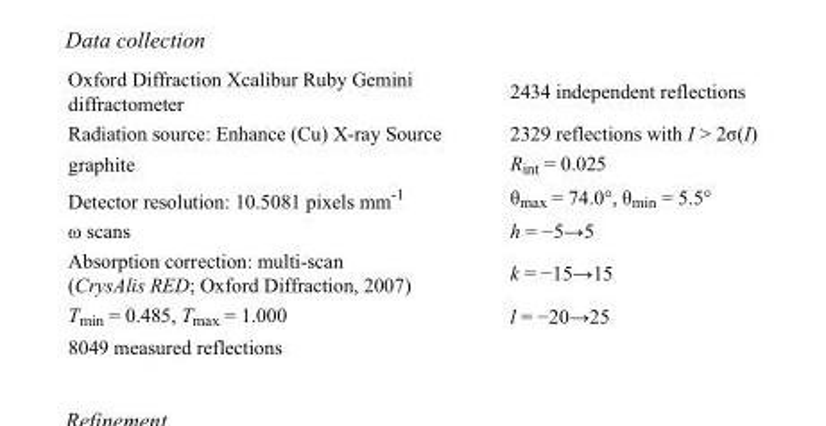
<table><tbody><tr><td>Oxford Diffraction Xcalibur Ruby Gemini diffractometer</td><td>2434 independent reflections</td></tr><tr><td>Radiation source: Enhance (Cu) X-ray Source</td><td>2329 reflections with I &gt; 2σ(I)</td></tr><tr><td>graphite</td><td>R<sub>int</sub> = 0.025</td></tr><tr><td>Detector resolution: 10.5081 pixels mm<sup>-1</sup></td><td>θ<sub>max</sub> = 74.0°, θ<sub>min</sub> = 5.5°</td></tr><tr><td>ω scans</td><td>h = −5→5</td></tr><tr><td>Absorption correction: multi-scan (CrysAlis RED; Oxford Diffraction, 2007)</td><td>k = −15→15</td></tr><tr><td>T<sub>min</sub> = 0.485, T<sub>max</sub> = 1.000</td><td>l = −20→25</td></tr><tr><td>8049 measured reflections</td><td></td></tr></tbody></table>